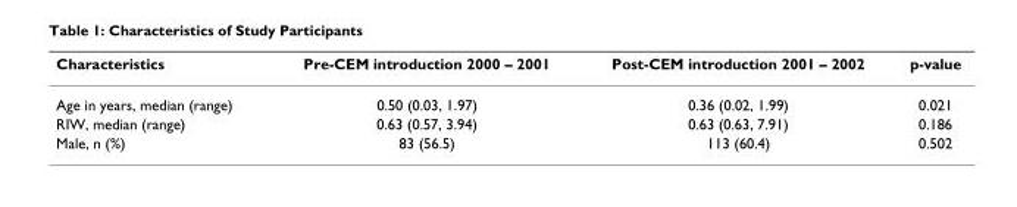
<table><thead><tr><td>Characteristics</td><td>Pre-CEM introduction 2000 – 2001</td><td>Post-CEM introduction 2001 – 2002</td><td>p-value</td></tr></thead><tbody><tr><td>Age in years, median (range)</td><td>0.50 (0.03, 1.97)</td><td>0.36 (0.02, 1.99)</td><td>0.021</td></tr><tr><td>RIW, median (range)</td><td>0.63 (0.57, 3.94)</td><td>0.63 (0.63, 7.91)</td><td>0.186</td></tr><tr><td>Male, n (%)</td><td>83 (56.5)</td><td>113 (60.4)</td><td>0.502</td></tr></tbody></table>